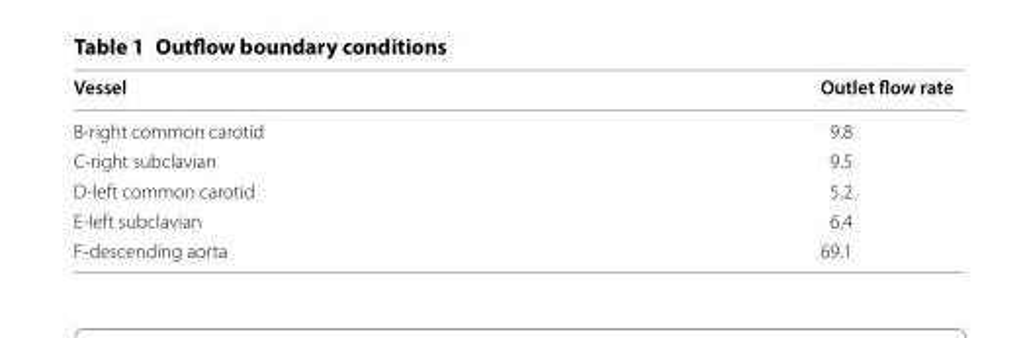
<table><thead><tr><td>Vessel</td><td>Outlet flow rate</td></tr></thead><tbody><tr><td>B-right common carotid</td><td>9.8</td></tr><tr><td>C-right subclavian</td><td>9.5</td></tr><tr><td>D-left common carotid</td><td>5.2</td></tr><tr><td>E-left subclavian</td><td>6.4</td></tr><tr><td>F-descending aorta</td><td>69.1</td></tr></tbody></table>